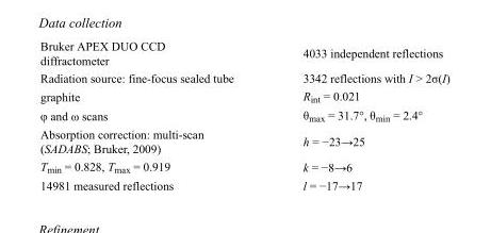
<table><tbody><tr><td>Bruker APEX DUO CCD diffractometer</td><td>4033 independent reflections</td></tr><tr><td>Radiation source: fine-focus sealed tube</td><td>3342 reflections with I &gt; 2σ(I)</td></tr><tr><td>graphite</td><td>R<sub>int</sub> = 0.021</td></tr><tr><td>φ and ω scans</td><td>θ<sub>max</sub> = 31.7°, θ<sub>min</sub> = 2.4°</td></tr><tr><td>Absorption correction: multi-scan (SADABS; Bruker, 2009)</td><td>h = −23→25</td></tr><tr><td>T<sub>min</sub> = 0.828, T<sub>max</sub> = 0.919</td><td>k = −8→6</td></tr><tr><td>14981 measured reflections</td><td>l = −17→17</td></tr></tbody></table>